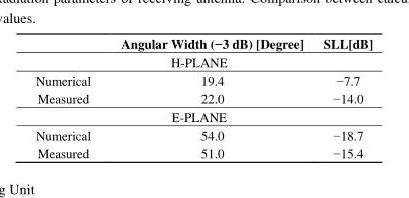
<table><thead><tr><td></td><td>Angular Width (−3 dB) [Degree]</td><td>SLL[dB]</td></tr></thead><tbody><tr><td colspan="3">H-PLANE</td></tr><tr><td>Numerical</td><td>19.4</td><td>−7.7</td></tr><tr><td>Measured</td><td>22.0</td><td>−14.0</td></tr><tr><td colspan="3">E-PLANE</td></tr><tr><td>Numerical</td><td>54.0</td><td>−18.7</td></tr><tr><td>Measured</td><td>51.0</td><td>−15.4</td></tr></tbody></table>